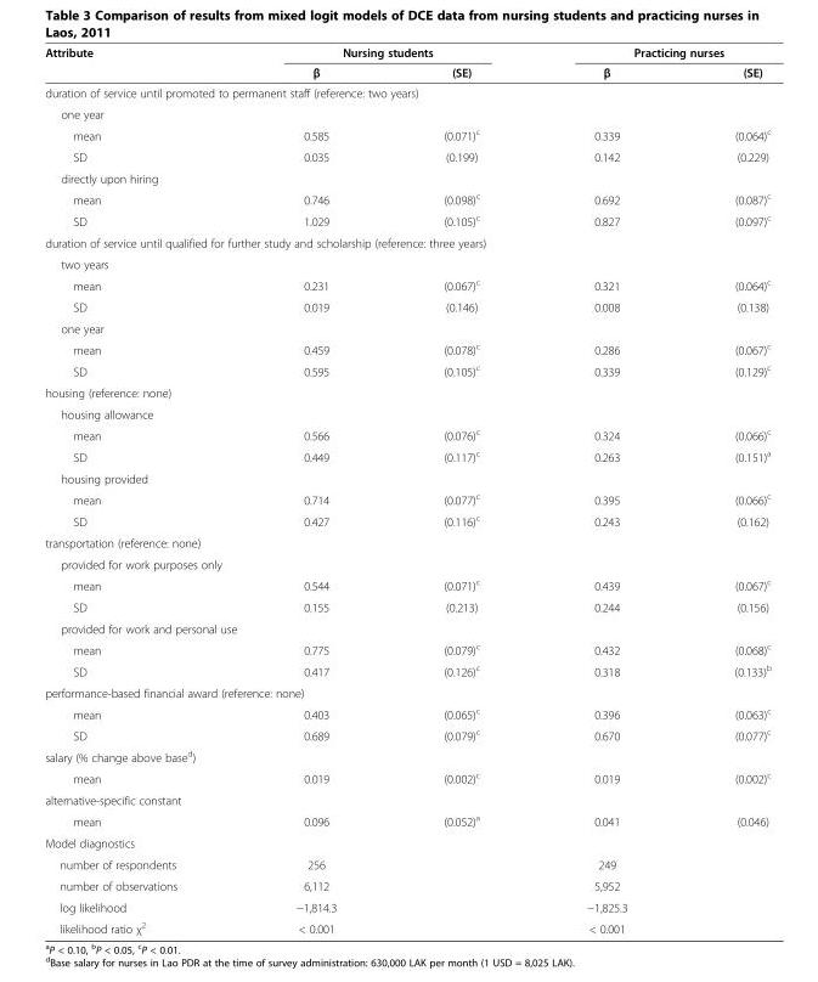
<table><thead><tr><td rowspan="2">Attribute</td><td colspan="2">Nursing students</td><td colspan="2">Practicing nurses</td></tr><tr><td>β</td><td>(SE)</td><td>β</td><td>(SE)</td></tr></thead><tbody><tr><td colspan="5">duration of service until promoted to permanent staff (reference: two years)</td></tr><tr><td colspan="5">one year</td></tr><tr><td>mean</td><td>0.585</td><td>(0.071)<sup>c</sup></td><td>0.339</td><td>(0.064)<sup>c</sup></td></tr><tr><td>SD</td><td>0.035</td><td>(0.199)</td><td>0.142</td><td>(0.229)</td></tr><tr><td colspan="5">directly upon hiring</td></tr><tr><td>mean</td><td>0.746</td><td>(0.098)<sup>c</sup></td><td>0.692</td><td>(0.087)<sup>c</sup></td></tr><tr><td>SD</td><td>1.029</td><td>(0.105)<sup>c</sup></td><td>0.827</td><td>(0.097)<sup>c</sup></td></tr><tr><td colspan="5">duration of service until qualified for further study and scholarship (reference: three years)</td></tr><tr><td colspan="5">two years</td></tr><tr><td>mean</td><td>0.231</td><td>(0.067)<sup>c</sup></td><td>0.321</td><td>(0.064)<sup>c</sup></td></tr><tr><td>SD</td><td>0.019</td><td>(0.146)</td><td>0.008</td><td>(0.138)</td></tr><tr><td colspan="5">one year</td></tr><tr><td>mean</td><td>0.459</td><td>(0.078)<sup>c</sup></td><td>0.286</td><td>(0.067)<sup>c</sup></td></tr><tr><td>SD</td><td>0.595</td><td>(0.105)<sup>c</sup></td><td>0.339</td><td>(0.129)<sup>c</sup></td></tr><tr><td colspan="5">housing (reference: none)</td></tr><tr><td colspan="5">housing allowance</td></tr><tr><td>mean</td><td>0.566</td><td>(0.076)<sup>c</sup></td><td>0.324</td><td>(0.066)<sup>c</sup></td></tr><tr><td>SD</td><td>0.449</td><td>(0.117)<sup>c</sup></td><td>0.263</td><td>(0.151)<sup>a</sup></td></tr><tr><td colspan="5">housing provided</td></tr><tr><td>mean</td><td>0.714</td><td>(0.077)<sup>c</sup></td><td>0.395</td><td>(0.066)<sup>c</sup></td></tr><tr><td>SD</td><td>0.427</td><td>(0.116)<sup>c</sup></td><td>0.243</td><td>(0.162)</td></tr><tr><td colspan="5">transportation (reference: none)</td></tr><tr><td colspan="5">provided for work purposes only</td></tr><tr><td>mean</td><td>0.544</td><td>(0.071)<sup>c</sup></td><td>0.439</td><td>(0.067)<sup>c</sup></td></tr><tr><td>SD</td><td>0.155</td><td>(0.213)</td><td>0.244</td><td>(0.156)</td></tr><tr><td colspan="5">provided for work and personal use</td></tr><tr><td>mean</td><td>0.775</td><td>(0.079)<sup>c</sup></td><td>0.432</td><td>(0.068)<sup>c</sup></td></tr><tr><td>SD</td><td>0.417</td><td>(0.126)<sup>c</sup></td><td>0.318</td><td>(0.133)<sup>b</sup></td></tr><tr><td colspan="5">performance-based financial award (reference: none)</td></tr><tr><td>mean</td><td>0.403</td><td>(0.065)<sup>c</sup></td><td>0.396</td><td>(0.063)<sup>c</sup></td></tr><tr><td>SD</td><td>0.689</td><td>(0.079)<sup>c</sup></td><td>0.670</td><td>(0.077)<sup>c</sup></td></tr><tr><td colspan="5">salary (% change above base<sup>d</sup>)</td></tr><tr><td>mean</td><td>0.019</td><td>(0.002)<sup>c</sup></td><td>0.019</td><td>(0.002)<sup>c</sup></td></tr><tr><td colspan="5">alternative-specific constant</td></tr><tr><td>mean</td><td>0.096</td><td>(0.052)<sup>a</sup></td><td>0.041</td><td>(0.046)</td></tr><tr><td colspan="5">Model diagnostics</td></tr><tr><td>number of respondents</td><td>256</td><td></td><td>249</td><td></td></tr><tr><td>number of observations</td><td>6,112</td><td></td><td>5,952</td><td></td></tr><tr><td>log likelihood</td><td>−1,814.3</td><td></td><td>−1,825.3</td><td></td></tr><tr><td>likelihood ratio χ<sup>2</sup></td><td>&lt; 0.001</td><td></td><td>&lt; 0.001</td><td></td></tr></tbody></table>